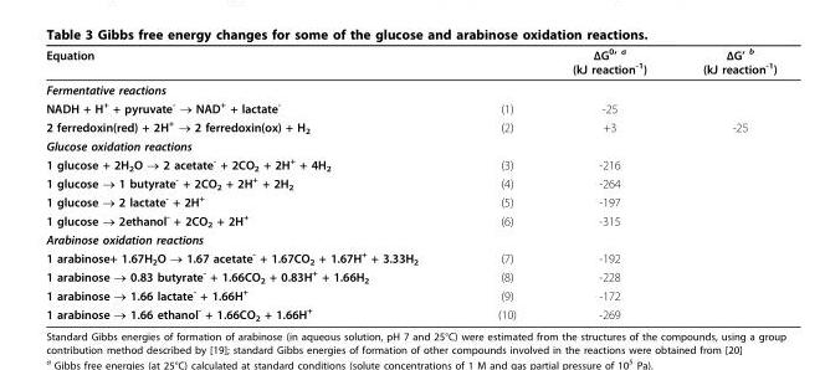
<table><thead><tr><td>Equation</td><td></td><td>ΔG<sup>0</sup>’ <sup>a</sup> (kJ reaction<sup>-1</sup>)</td><td>ΔG’ <sup>b</sup> (kJ reaction<sup>-1</sup>)</td></tr></thead><tbody><tr><td colspan="4">Fermentative reactions</td></tr><tr><td>NADH + H<sup>+</sup> + pyruvate<sup>-</sup> → NAD<sup>+</sup> + lactate<sup>-</sup></td><td>(1)</td><td>-25</td><td></td></tr><tr><td>2 ferredoxin(red) + 2H<sup>+</sup> → 2 ferredoxin(ox) + H<sub>2</sub></td><td>(2)</td><td>+3</td><td>-25</td></tr><tr><td colspan="4">Glucose oxidation reactions</td></tr><tr><td>1 glucose + 2H<sub>2</sub>O → 2 acetate<sup>-</sup> + 2CO<sub>2</sub> + 2H<sup>+</sup> + 4H<sub>2</sub></td><td>(3)</td><td>-216</td><td></td></tr><tr><td>1 glucose → 1 butyrate<sup>-</sup> + 2CO<sub>2</sub> + 2H<sup>+</sup> + 2H<sub>2</sub></td><td>(4)</td><td>-264</td><td></td></tr><tr><td>1 glucose → 2 lactate<sup>-</sup> + 2H<sup>+</sup></td><td>(5)</td><td>-197</td><td></td></tr><tr><td>1 glucose → 2ethanol<sup>-</sup> + 2CO<sub>2</sub> + 2H<sup>+</sup></td><td>(6)</td><td>-315</td><td></td></tr><tr><td colspan="4">Arabinose oxidation reactions</td></tr><tr><td>1 arabinose+ 1.67H<sub>2</sub>O → 1.67 acetate<sup>-</sup> + 1.67CO<sub>2</sub> + 1.67H<sup>+</sup> + 3.33H<sub>2</sub></td><td>(7)</td><td>-192</td><td></td></tr><tr><td>1 arabinose → 0.83 butyrate<sup>-</sup> + 1.66CO<sub>2</sub> + 0.83H<sup>+</sup> + 1.66H<sub>2</sub></td><td>(8)</td><td>-228</td><td></td></tr><tr><td>1 arabinose → 1.66 lactate<sup>-</sup> + 1.66H<sup>+</sup></td><td>(9)</td><td>-172</td><td></td></tr><tr><td>1 arabinose → 1.66 ethanol<sup>-</sup> + 1.66CO<sub>2</sub> + 1.66H<sup>+</sup></td><td>(10)</td><td>-269</td><td></td></tr></tbody></table>